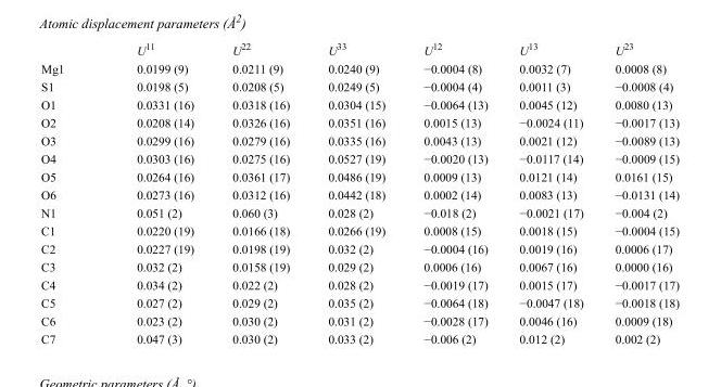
<table><thead><tr><td></td><td>U<sup>11</sup></td><td>U<sup>22</sup></td><td>U<sup>33</sup></td><td>U<sup>12</sup></td><td>U<sup>13</sup></td><td>U<sup>23</sup></td></tr></thead><tbody><tr><td>Mg1</td><td>0.0199 (9)</td><td>0.0211 (9)</td><td>0.0240 (9)</td><td>−0.0004 (8)</td><td>0.0032 (7)</td><td>0.0008 (8)</td></tr><tr><td>S1</td><td>0.0198 (5)</td><td>0.0208 (5)</td><td>0.0249 (5)</td><td>−0.0004 (4)</td><td>0.0011 (3)</td><td>−0.0008 (4)</td></tr><tr><td>O1</td><td>0.0331 (16)</td><td>0.0318 (16)</td><td>0.0304 (15)</td><td>−0.0064 (13)</td><td>0.0045 (12)</td><td>0.0080 (13)</td></tr><tr><td>O2</td><td>0.0208 (14)</td><td>0.0326 (16)</td><td>0.0351 (16)</td><td>0.0015 (13)</td><td>−0.0024 (11)</td><td>−0.0017 (13)</td></tr><tr><td>O3</td><td>0.0299 (16)</td><td>0.0279 (16)</td><td>0.0335 (16)</td><td>0.0043 (13)</td><td>0.0021 (12)</td><td>−0.0089 (13)</td></tr><tr><td>O4</td><td>0.0303 (16)</td><td>0.0275 (16)</td><td>0.0527 (19)</td><td>−0.0020 (13)</td><td>−0.0117 (14)</td><td>−0.0009 (15)</td></tr><tr><td>O5</td><td>0.0264 (16)</td><td>0.0361 (17)</td><td>0.0486 (19)</td><td>0.0009 (13)</td><td>0.0121 (14)</td><td>0.0161 (15)</td></tr><tr><td>O6</td><td>0.0273 (16)</td><td>0.0312 (16)</td><td>0.0442 (18)</td><td>0.0002 (14)</td><td>0.0083 (13)</td><td>−0.0131 (14)</td></tr><tr><td>N1</td><td>0.051 (2)</td><td>0.060 (3)</td><td>0.028 (2)</td><td>−0.018 (2)</td><td>−0.0021 (17)</td><td>−0.004 (2)</td></tr><tr><td>C1</td><td>0.0220 (19)</td><td>0.0166 (18)</td><td>0.0266 (19)</td><td>0.0008 (15)</td><td>0.0018 (15)</td><td>−0.0004 (15)</td></tr><tr><td>C2</td><td>0.0227 (19)</td><td>0.0198 (19)</td><td>0.032 (2)</td><td>−0.0004 (16)</td><td>0.0019 (16)</td><td>0.0006 (17)</td></tr><tr><td>C3</td><td>0.032 (2)</td><td>0.0158 (19)</td><td>0.029 (2)</td><td>0.0006 (16)</td><td>0.0067 (16)</td><td>0.0000 (16)</td></tr><tr><td>C4</td><td>0.034 (2)</td><td>0.022 (2)</td><td>0.028 (2)</td><td>−0.0019 (17)</td><td>0.0015 (17)</td><td>−0.0017 (17)</td></tr><tr><td>C5</td><td>0.027 (2)</td><td>0.029 (2)</td><td>0.035 (2)</td><td>−0.0064 (18)</td><td>−0.0047 (18)</td><td>−0.0018 (18)</td></tr><tr><td>C6</td><td>0.023 (2)</td><td>0.030 (2)</td><td>0.031 (2)</td><td>−0.0028 (17)</td><td>0.0046 (16)</td><td>0.0009 (18)</td></tr><tr><td>C7</td><td>0.047 (3)</td><td>0.030 (2)</td><td>0.033 (2)</td><td>−0.006 (2)</td><td>0.012 (2)</td><td>0.002 (2)</td></tr></tbody></table>